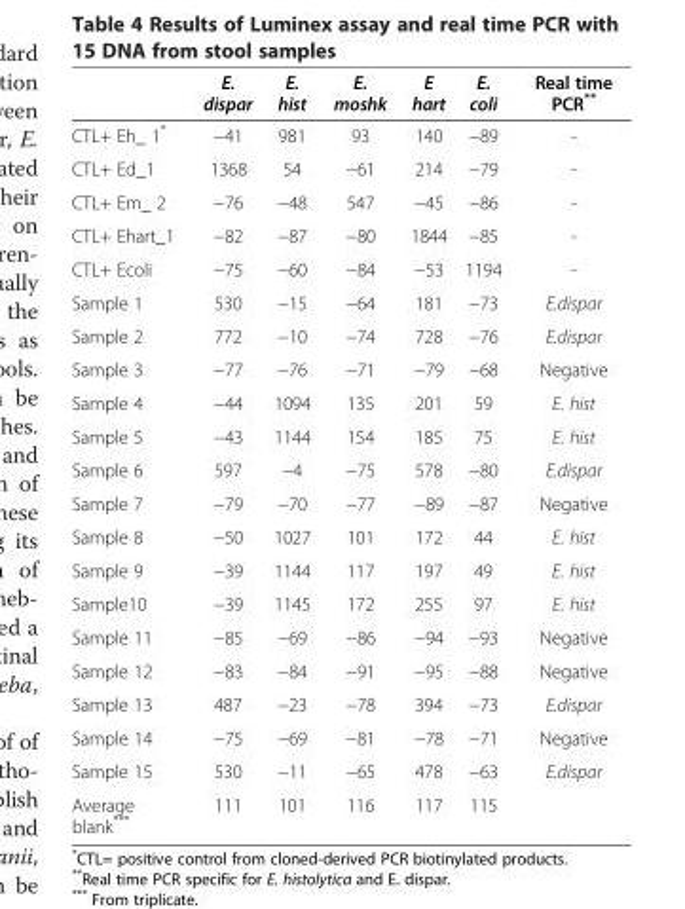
<table><thead><tr><td></td><td>E. dispar</td><td>E. hist</td><td>E. moshk</td><td>E hart</td><td>E. coli</td><td>Real time PCR**</td></tr></thead><tbody><tr><td>CTL+ Eh_ 1*</td><td>−41</td><td>981</td><td>93</td><td>140</td><td>−89</td><td>-</td></tr><tr><td>CTL+ Ed_1</td><td>1368</td><td>54</td><td>−61</td><td>214</td><td>−79</td><td>-</td></tr><tr><td>CTL+ Em_ 2</td><td>−76</td><td>−48</td><td>547</td><td>−45</td><td>−86</td><td>-</td></tr><tr><td>CTL+ Ehart_1</td><td>−82</td><td>−87</td><td>−80</td><td>1844</td><td>−85</td><td>-</td></tr><tr><td>CTL+ Ecoli</td><td>−75</td><td>−60</td><td>−84</td><td>−53</td><td>1194</td><td>-</td></tr><tr><td>Sample 1</td><td>530</td><td>−15</td><td>−64</td><td>181</td><td>−73</td><td>E.dispar</td></tr><tr><td>Sample 2</td><td>772</td><td>−10</td><td>−74</td><td>728</td><td>−76</td><td>E.dispar</td></tr><tr><td>Sample 3</td><td>−77</td><td>−76</td><td>−71</td><td>−79</td><td>−68</td><td>Negative</td></tr><tr><td>Sample 4</td><td>−44</td><td>1094</td><td>135</td><td>201</td><td>59</td><td>E. hist</td></tr><tr><td>Sample 5</td><td>−43</td><td>1144</td><td>154</td><td>185</td><td>75</td><td>E. hist</td></tr><tr><td>Sample 6</td><td>597</td><td>−4</td><td>−75</td><td>578</td><td>−80</td><td>E.dispar</td></tr><tr><td>Sample 7</td><td>−79</td><td>−70</td><td>−77</td><td>−89</td><td>−87</td><td>Negative</td></tr><tr><td>Sample 8</td><td>−50</td><td>1027</td><td>101</td><td>172</td><td>44</td><td>E. hist</td></tr><tr><td>Sample 9</td><td>−39</td><td>1144</td><td>117</td><td>197</td><td>49</td><td>E. hist</td></tr><tr><td>Sample10</td><td>−39</td><td>1145</td><td>172</td><td>255</td><td>97</td><td>E. hist</td></tr><tr><td>Sample 11</td><td>−85</td><td>−69</td><td>−86</td><td>−94</td><td>−93</td><td>Negative</td></tr><tr><td>Sample 12</td><td>−83</td><td>−84</td><td>−91</td><td>−95</td><td>−88</td><td>Negative</td></tr><tr><td>Sample 13</td><td>487</td><td>−23</td><td>−78</td><td>394</td><td>−73</td><td>E.dispar</td></tr><tr><td>Sample 14</td><td>−75</td><td>−69</td><td>−81</td><td>−78</td><td>−71</td><td>Negative</td></tr><tr><td>Sample 15</td><td>530</td><td>−11</td><td>−65</td><td>478</td><td>−63</td><td>E.dispar</td></tr><tr><td>Average blank***</td><td>111</td><td>101</td><td>116</td><td>117</td><td>115</td><td></td></tr></tbody></table>